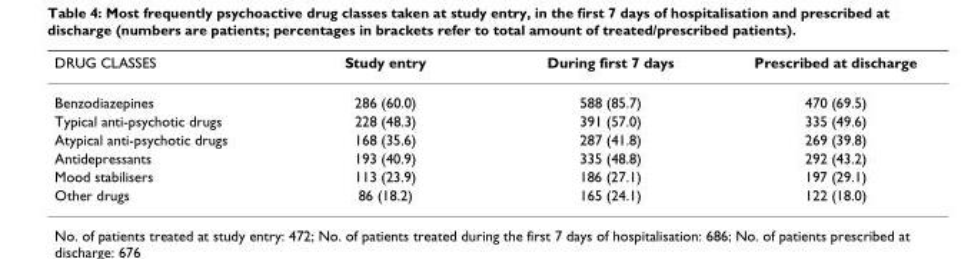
<table><thead><tr><td>DRUG CLASSES</td><td>Study entry</td><td>During first 7 days</td><td>Prescribed at discharge</td></tr></thead><tbody><tr><td>Benzodiazepines</td><td>286 (60.0)</td><td>588 (85.7)</td><td>470 (69.5)</td></tr><tr><td>Typical anti-psychotic drugs</td><td>228 (48.3)</td><td>391 (57.0)</td><td>335 (49.6)</td></tr><tr><td>Atypical anti-psychotic drugs</td><td>168 (35.6)</td><td>287 (41.8)</td><td>269 (39.8)</td></tr><tr><td>Antidepressants</td><td>193 (40.9)</td><td>335 (48.8)</td><td>292 (43.2)</td></tr><tr><td>Mood stabilisers</td><td>113 (23.9)</td><td>186 (27.1)</td><td>197 (29.1)</td></tr><tr><td>Other drugs</td><td>86 (18.2)</td><td>165 (24.1)</td><td>122 (18.0)</td></tr></tbody></table>